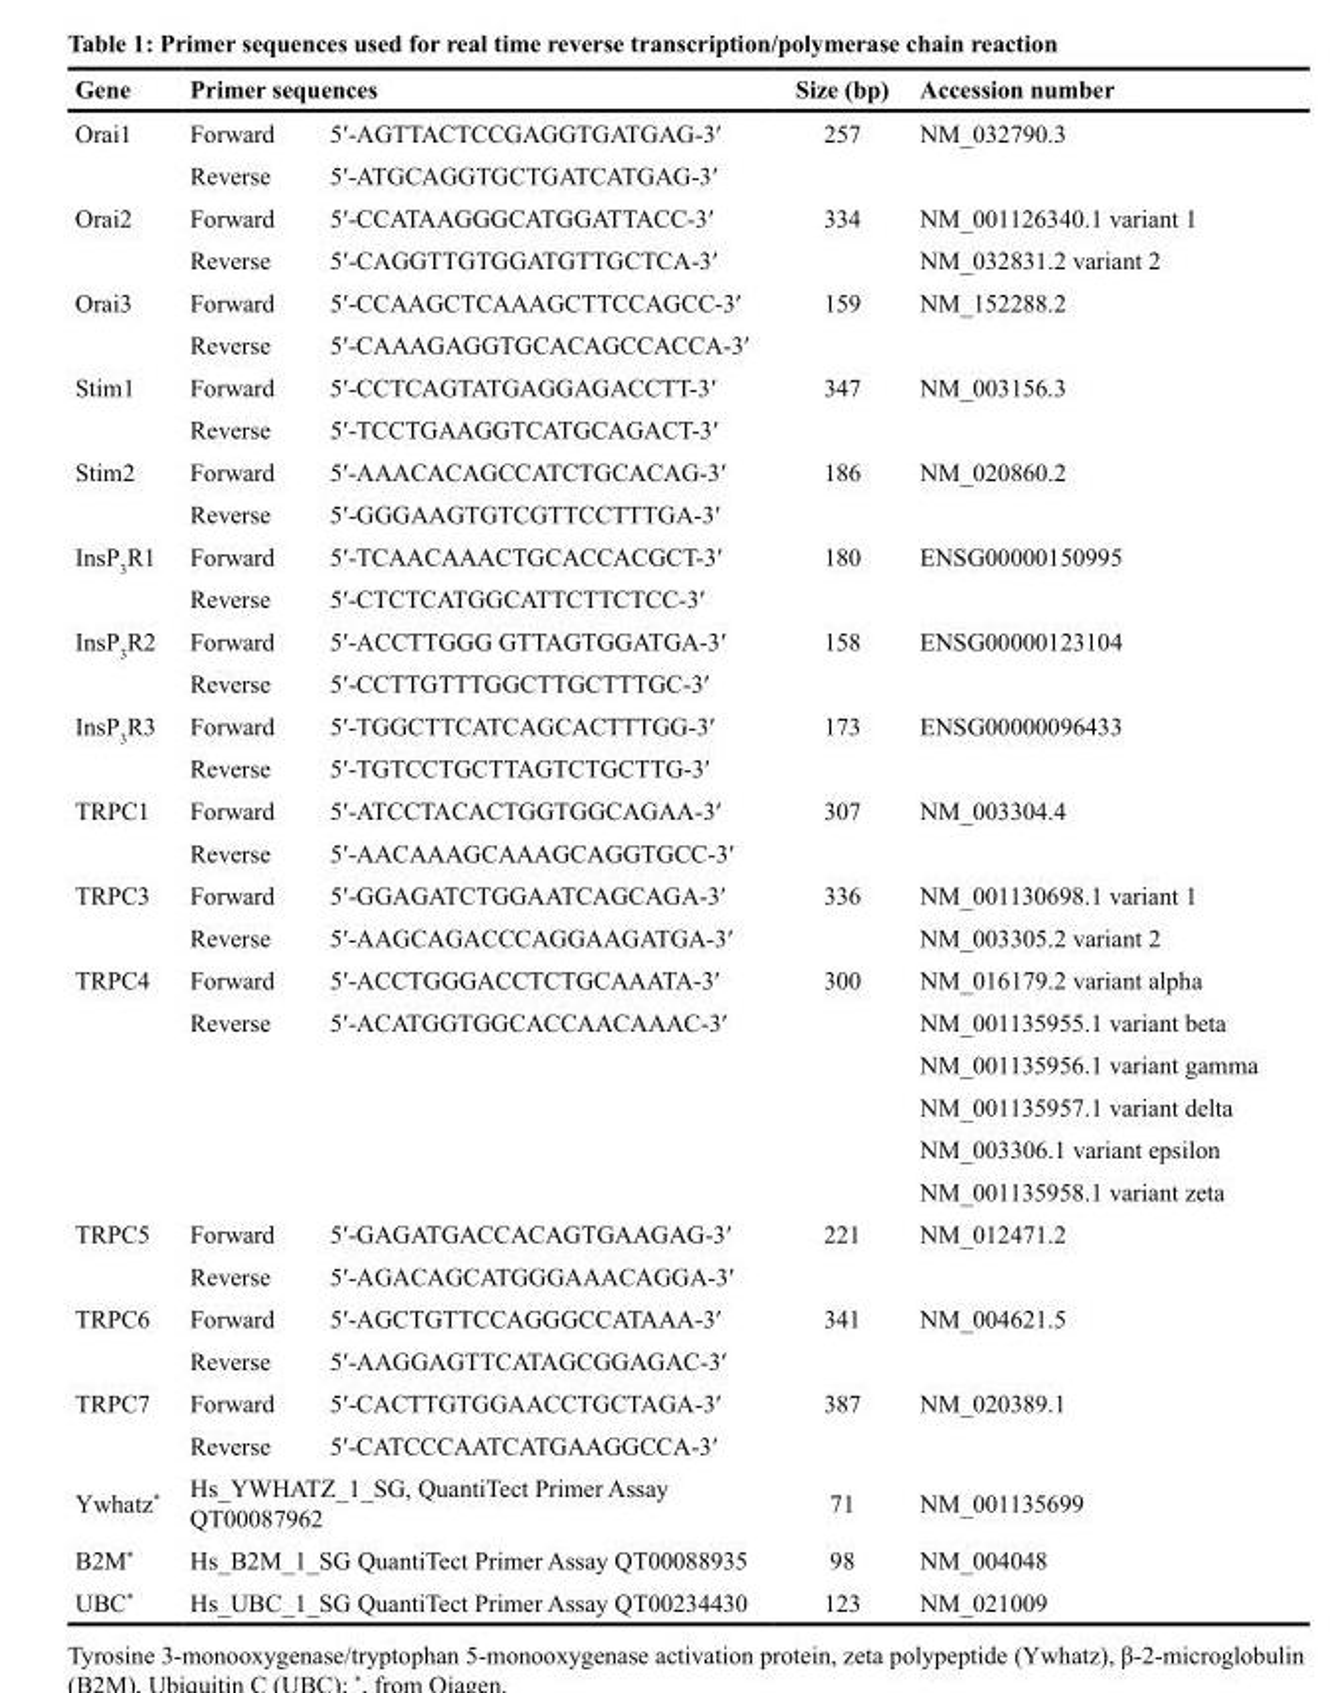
<table><thead><tr><td rowspan="2">Gene Orai1</td><td colspan="2">Primer sequences</td><td rowspan="2">Size (bp) 257</td><td rowspan="2">Accession number NM_032790.3</td></tr><tr><td>Forward</td><td>5′-AGTTACTCCGAGGTGATGAG-3′</td></tr></thead><tbody><tr><td></td><td>Reverse</td><td>5′-ATGCAGGTGCTGATCATGAG-3′</td><td></td><td></td></tr><tr><td rowspan="2">Orai2</td><td>Forward</td><td>5′-CCATAAGGGCATGGATTACC-3′</td><td>334</td><td>NM_001126340.1 variant 1</td></tr><tr><td>Reverse</td><td>5′-CAGGTTGTGGATGTTGCTCA-3′</td><td></td><td>NM_032831.2 variant 2</td></tr><tr><td rowspan="2">Orai3</td><td>Forward</td><td>5′-CCAAGCTCAAAGCTTCCAGCC-3′</td><td>159</td><td>NM_152288.2</td></tr><tr><td>Reverse</td><td>5′-CAAAGAGGTGCACAGCCACCA-3′</td><td></td><td></td></tr><tr><td rowspan="2">Stim1</td><td>Forward</td><td>5′-CCTCAGTATGAGGAGACCTT-3′</td><td>347</td><td>NM_003156.3</td></tr><tr><td>Reverse</td><td>5′-TCCTGAAGGTCATGCAGACT-3′</td><td></td><td></td></tr><tr><td rowspan="2">Stim2</td><td>Forward</td><td>5′-AAACACAGCCATCTGCACAG-3′</td><td>186</td><td>NM_020860.2</td></tr><tr><td>Reverse</td><td>5′-GGGAAGTGTCGTTCCTTTGA-3′</td><td></td><td></td></tr><tr><td rowspan="2">InsP<sub>3</sub>R1</td><td>Forward</td><td>5′-TCAACAAACTGCACCACGCT-3′</td><td>180</td><td>ENSG00000150995</td></tr><tr><td>Reverse</td><td>5′-CTCTCATGGCATTCTTCTCC-3′</td><td></td><td></td></tr><tr><td rowspan="2">InsP<sub>3</sub>R2</td><td>Forward</td><td>5′-ACCTTGGG GTTAGTGGATGA-3′</td><td>158</td><td>ENSG00000123104</td></tr><tr><td>Reverse</td><td>5′-CCTTGTTTGGCTTGCTTTGC-3′</td><td></td><td></td></tr><tr><td rowspan="2">InsP<sub>3</sub>R3</td><td>Forward</td><td>5′-TGGCTTCATCAGCACTTTGG-3′</td><td>173</td><td>ENSG00000096433</td></tr><tr><td>Reverse</td><td>5′-TGTCCTGCTTAGTCTGCTTG-3′</td><td></td><td></td></tr><tr><td rowspan="2">TRPC1</td><td>Forward</td><td>5′-ATCCTACACTGGTGGCAGAA-3′</td><td>307</td><td>NM_003304.4</td></tr><tr><td>Reverse</td><td>5′-AACAAAGCAAAGCAGGTGCC-3′</td><td></td><td></td></tr><tr><td rowspan="2">TRPC3</td><td>Forward</td><td>5′-GGAGATCTGGAATCAGCAGA-3′</td><td>336</td><td>NM_001130698.1 variant 1</td></tr><tr><td>Reverse</td><td>5′-AAGCAGACCCAGGAAGATGA-3′</td><td></td><td>NM_003305.2 variant 2</td></tr><tr><td rowspan="6">TRPC4</td><td>Forward</td><td>5′-ACCTGGGACCTCTGCAAATA-3′</td><td>300</td><td>NM_016179.2 variant alpha</td></tr><tr><td>Reverse</td><td>5′-ACATGGTGGCACCAACAAAC-3′</td><td></td><td>NM_001135955.1 variant beta</td></tr><tr><td></td><td></td><td></td><td>NM_001135956.1 variant gamma</td></tr><tr><td></td><td></td><td></td><td>NM_001135957.1 variant delta</td></tr><tr><td></td><td></td><td></td><td>NM_003306.1 variant epsilon</td></tr><tr><td></td><td></td><td></td><td>NM_001135958.1 variant zeta</td></tr><tr><td rowspan="2">TRPC5</td><td>Forward</td><td>5′-GAGATGACCACAGTGAAGAG-3′</td><td>221</td><td>NM_012471.2</td></tr><tr><td>Reverse</td><td>5′-AGACAGCATGGGAAACAGGA-3′</td><td></td><td></td></tr><tr><td rowspan="2">TRPC6</td><td>Forward</td><td>5′-AGCTGTTCCAGGGCCATAAA-3′</td><td>341</td><td>NM_004621.5</td></tr><tr><td>Reverse</td><td>5′-AAGGAGTTCATAGCGGAGAC-3′</td><td></td><td></td></tr><tr><td rowspan="2">TRPC7</td><td>Forward</td><td>5′-CACTTGTGGAACCTGCTAGA-3′</td><td>387</td><td>NM_020389.1</td></tr><tr><td>Reverse</td><td>5′-CATCCCAATCATGAAGGCCA-3′</td><td></td><td></td></tr><tr><td>Ywhatz*</td><td colspan="2">Hs_YWHATZ_1_SG, QuantiTect Primer Assay QT00087962</td><td>71</td><td>NM_001135699</td></tr><tr><td>B2M*</td><td colspan="2">Hs_B2M_1_SG QuantiTect Primer Assay QT00088935</td><td>98</td><td>NM_004048</td></tr><tr><td>UBC*</td><td colspan="2">Hs_UBC_1_SG QuantiTect Primer Assay QT00234430</td><td>123</td><td>NM_021009</td></tr></tbody></table>